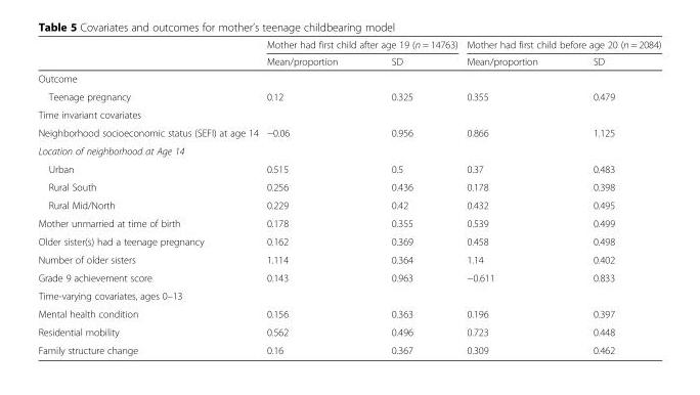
<table><thead><tr><td rowspan="2"></td><td colspan="2">Mother had first child after age 19 (n = 14763)</td><td colspan="2">Mother had first child before age 20 (n = 2084)</td></tr><tr><td>Mean/proportion</td><td>SD</td><td>Mean/proportion</td><td>SD</td></tr></thead><tbody><tr><td colspan="5">Outcome</td></tr><tr><td>Teenage pregnancy</td><td>0.12</td><td>0.325</td><td>0.355</td><td>0.479</td></tr><tr><td colspan="5">Time invariant covariates</td></tr><tr><td>Neighborhood socioeconomic status (SEFI) at age 14</td><td>−0.06</td><td>0.956</td><td>0.866</td><td>1.125</td></tr><tr><td colspan="5">Location of neighborhood at Age 14</td></tr><tr><td>Urban</td><td>0.515</td><td>0.5</td><td>0.37</td><td>0.483</td></tr><tr><td>Rural South</td><td>0.256</td><td>0.436</td><td>0.178</td><td>0.398</td></tr><tr><td>Rural Mid/North</td><td>0.229</td><td>0.42</td><td>0.432</td><td>0.495</td></tr><tr><td>Mother unmarried at time of birth</td><td>0.178</td><td>0.355</td><td>0.539</td><td>0.499</td></tr><tr><td>Older sister(s) had a teenage pregnancy</td><td>0.162</td><td>0.369</td><td>0.458</td><td>0.498</td></tr><tr><td>Number of older sisters</td><td>1.114</td><td>0.364</td><td>1.14</td><td>0.402</td></tr><tr><td>Grade 9 achievement score</td><td>0.143</td><td>0.963</td><td>−0.611</td><td>0.833</td></tr><tr><td colspan="5">Time-varying covariates, ages 0–13</td></tr><tr><td>Mental health condition</td><td>0.156</td><td>0.363</td><td>0.196</td><td>0.397</td></tr><tr><td>Residential mobility</td><td>0.562</td><td>0.496</td><td>0.723</td><td>0.448</td></tr><tr><td>Family structure change</td><td>0.16</td><td>0.367</td><td>0.309</td><td>0.462</td></tr></tbody></table>